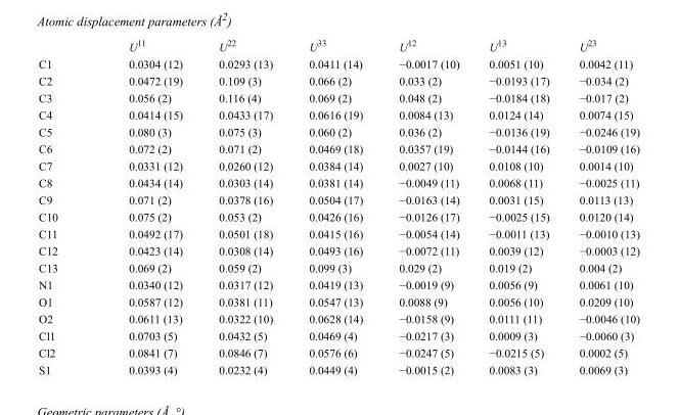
<table><thead><tr><td></td><td>U<sup>11</sup></td><td>U<sup>22</sup></td><td>U<sup>33</sup></td><td>U<sup>12</sup></td><td>U<sup>13</sup></td><td>U<sup>23</sup></td></tr></thead><tbody><tr><td>C1</td><td>0.0304 (12)</td><td>0.0293 (13)</td><td>0.0411 (14)</td><td>−0.0017 (10)</td><td>0.0051 (10)</td><td>0.0042 (11)</td></tr><tr><td>C2</td><td>0.0472 (19)</td><td>0.109 (3)</td><td>0.066 (2)</td><td>0.033 (2)</td><td>−0.0193 (17)</td><td>−0.034 (2)</td></tr><tr><td>C3</td><td>0.056 (2)</td><td>0.116 (4)</td><td>0.069 (2)</td><td>0.048 (2)</td><td>−0.0184 (18)</td><td>−0.017 (2)</td></tr><tr><td>C4</td><td>0.0414 (15)</td><td>0.0433 (17)</td><td>0.0616 (19)</td><td>0.0084 (13)</td><td>0.0124 (14)</td><td>0.0074 (15)</td></tr><tr><td>C5</td><td>0.080 (3)</td><td>0.075 (3)</td><td>0.060 (2)</td><td>0.036 (2)</td><td>−0.0136 (19)</td><td>−0.0246 (19)</td></tr><tr><td>C6</td><td>0.072 (2)</td><td>0.071 (2)</td><td>0.0469 (18)</td><td>0.0357 (19)</td><td>−0.0144 (16)</td><td>−0.0109 (16)</td></tr><tr><td>C7</td><td>0.0331 (12)</td><td>0.0260 (12)</td><td>0.0384 (14)</td><td>0.0027 (10)</td><td>0.0108 (10)</td><td>0.0014 (10)</td></tr><tr><td>C8</td><td>0.0434 (14)</td><td>0.0303 (14)</td><td>0.0381 (14)</td><td>−0.0049 (11)</td><td>0.0068 (11)</td><td>−0.0025 (11)</td></tr><tr><td>C9</td><td>0.071 (2)</td><td>0.0378 (16)</td><td>0.0504 (17)</td><td>−0.0163 (14)</td><td>0.0031 (15)</td><td>0.0113 (13)</td></tr><tr><td>C10</td><td>0.075 (2)</td><td>0.053 (2)</td><td>0.0426 (16)</td><td>−0.0126 (17)</td><td>−0.0025 (15)</td><td>0.0120 (14)</td></tr><tr><td>C11</td><td>0.0492 (17)</td><td>0.0501 (18)</td><td>0.0415 (16)</td><td>−0.0054 (14)</td><td>−0.0011 (13)</td><td>−0.0010 (13)</td></tr><tr><td>C12</td><td>0.0423 (14)</td><td>0.0308 (14)</td><td>0.0493 (16)</td><td>−0.0072 (11)</td><td>0.0039 (12)</td><td>−0.0003 (12)</td></tr><tr><td>C13</td><td>0.069 (2)</td><td>0.059 (2)</td><td>0.099 (3)</td><td>0.029 (2)</td><td>0.019 (2)</td><td>0.004 (2)</td></tr><tr><td>N1</td><td>0.0340 (12)</td><td>0.0317 (12)</td><td>0.0419 (13)</td><td>−0.0019 (9)</td><td>0.0056 (9)</td><td>0.0061 (10)</td></tr><tr><td>O1</td><td>0.0587 (12)</td><td>0.0381 (11)</td><td>0.0547 (13)</td><td>0.0088 (9)</td><td>0.0056 (10)</td><td>0.0209 (10)</td></tr><tr><td>O2</td><td>0.0611 (13)</td><td>0.0322 (10)</td><td>0.0628 (14)</td><td>−0.0158 (9)</td><td>0.0111 (11)</td><td>−0.0046 (10)</td></tr><tr><td>Cl1</td><td>0.0703 (5)</td><td>0.0432 (5)</td><td>0.0469 (4)</td><td>−0.0217 (3)</td><td>0.0009 (3)</td><td>−0.0060 (3)</td></tr><tr><td>Cl2</td><td>0.0841 (7)</td><td>0.0846 (7)</td><td>0.0576 (6)</td><td>−0.0247 (5)</td><td>−0.0215 (5)</td><td>0.0002 (5)</td></tr><tr><td>S1</td><td>0.0393 (4)</td><td>0.0232 (4)</td><td>0.0449 (4)</td><td>−0.0015 (2)</td><td>0.0083 (3)</td><td>0.0069 (3)</td></tr></tbody></table>